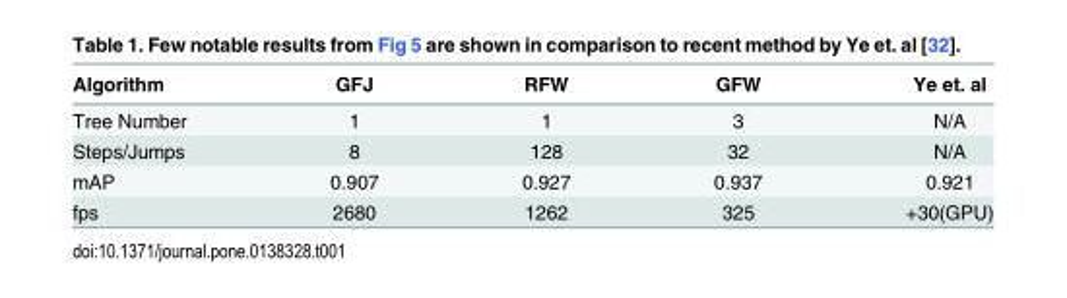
<table><thead><tr><td>Algorithm</td><td>GFJ</td><td>RFW</td><td>GFW</td><td>Ye et. al</td></tr></thead><tbody><tr><td>Tree Number</td><td>1</td><td>1</td><td>3</td><td>N/A</td></tr><tr><td>Steps/Jumps</td><td>8</td><td>128</td><td>32</td><td>N/A</td></tr><tr><td>mAP</td><td>0.907</td><td>0.927</td><td>0.937</td><td>0.921</td></tr><tr><td>fps</td><td>2680</td><td>1262</td><td>325</td><td>+30(GPU)</td></tr></tbody></table>